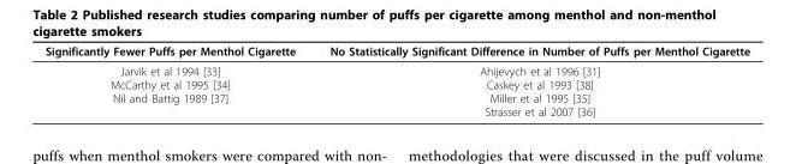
<table><thead><tr><td>Significantly Fewer Puffs per Menthol Cigarette</td><td>No Statistically Significant Difference in Number of Puffs per Menthol Cigarette</td></tr></thead><tbody><tr><td>Jarvik et al 1994 [33] McCarthy et al 1995 [34] Nil and Battig 1989 [37]</td><td>Ahijevych et al 1996 [31] Caskey et al 1993 [38] Miller et al 1995 [35] Strasser et al 2007 [36]</td></tr></tbody></table>